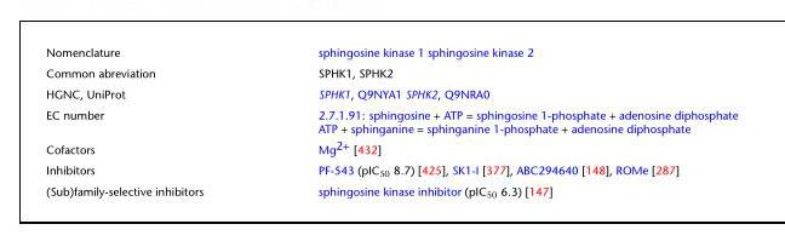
<table><tbody><tr><td>Nomenclature</td><td>sphingosine kinase 1 sphingosine kinase 2</td></tr><tr><td>Common abreviation</td><td>SPHK1, SPHK2</td></tr><tr><td>HGNC, UniProt</td><td>SPHK1, Q9NYA1 SPHK2, Q9NRA0</td></tr><tr><td>EC number</td><td>2.7.1.91: sphingosine + ATP = sphingosine 1-phosphate + adenosine diphosphate ATP + sphinganine = sphinganine 1-phosphate + adenosine diphosphate</td></tr><tr><td>Cofactors</td><td>Mg<sup>2+</sup> [432]</td></tr><tr><td>Inhibitors</td><td>PF-543 (pIC<sub>50</sub> 8.7) [425], SK1-I [377], ABC294640 [148], ROMe [287]</td></tr><tr><td>(Sub)family-selective inhibitors</td><td>sphingosine kinase inhibitor (pIC<sub>50</sub> 6.3) [147]</td></tr></tbody></table>